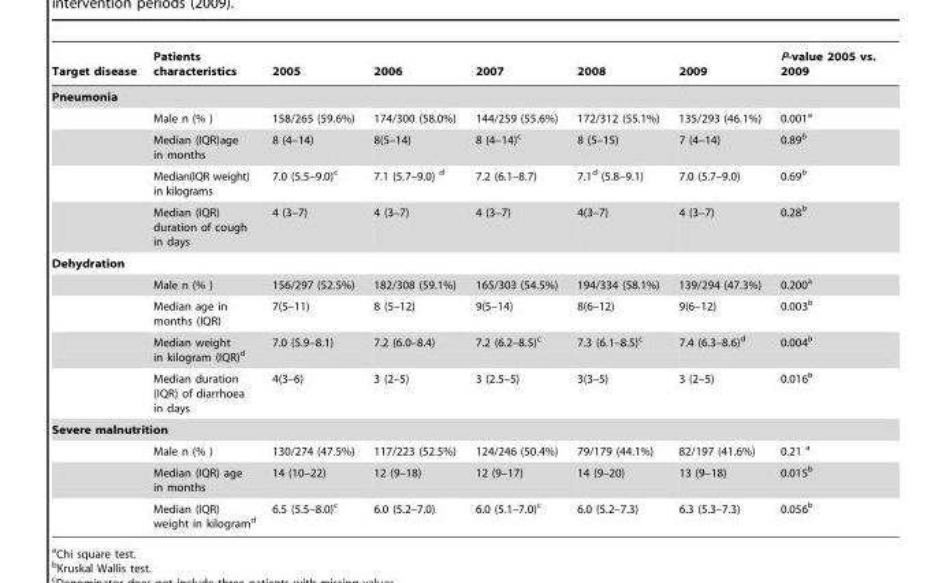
<table><thead><tr><td>Target disease</td><td>Patients characteristics</td><td>2005</td><td>2006</td><td>2007</td><td>2008</td><td>2009</td><td>P-value 2005 vs. 2009</td></tr></thead><tbody><tr><td colspan="8">Pneumonia</td></tr><tr><td></td><td>Male n (% )</td><td>158/265 (59.6%)</td><td>174/300 (58.0%)</td><td>144/259 (55.6%)</td><td>172/312 (55.1%)</td><td>135/293 (46.1%)</td><td>0.001<sup>a</sup></td></tr><tr><td></td><td>Median (IQR)age in months</td><td>8 (4–14)</td><td>8(5–14)</td><td>8 (4–14)<sup>c</sup></td><td>8 (5–15)</td><td>7 (4–14)</td><td>0.89<sup>b</sup></td></tr><tr><td></td><td>Median(IQR weight) in kilograms</td><td>7.0 (5.5–9.0)<sup>c</sup></td><td>7.1 (5.7–9.0) d</td><td>7.2 (6.1–8.7)</td><td>7.1<sup>d</sup> (5.8–9.1)</td><td>7.0 (5.7–9.0)</td><td>0.69<sup>b</sup></td></tr><tr><td></td><td>Median (IQR) duration of cough in days</td><td>4 (3–7)</td><td>4 (3–7)</td><td>4 (3–7)</td><td>4(3–7)</td><td>4 (3–7)</td><td>0.28<sup>b</sup></td></tr><tr><td colspan="8">Dehydration</td></tr><tr><td></td><td>Male n (% )</td><td>156/297 (52.5%)</td><td>182/308 (59.1%)</td><td>165/303 (54.5%)</td><td>194/334 (58.1%)</td><td>139/294 (47.3%)</td><td>0.200<sup>a</sup></td></tr><tr><td></td><td>Median age in months (IQR)</td><td>7(5–11)</td><td>8 (5–12)</td><td>9(5–14)</td><td>8(6–12)</td><td>9(6–12)</td><td>0.003<sup>b</sup></td></tr><tr><td></td><td>Median weight in kilogram (IQR)<sup>d</sup></td><td>7.0 (5.9–8.1)</td><td>7.2 (6.0–8.4)</td><td>7.2 (6.2–8.5)<sup>c</sup></td><td>7.3 (6.1–8.5)<sup>c</sup></td><td>7.4 (6.3–8.6)<sup>d</sup></td><td>0.004<sup>b</sup></td></tr><tr><td></td><td>Median duration (IQR) of diarrhoea in days</td><td>4(3–6)</td><td>3 (2–5)</td><td>3 (2.5–5)</td><td>3(3–5)</td><td>3 (2–5)</td><td>0.016<sup>b</sup></td></tr><tr><td colspan="8">Severe malnutrition</td></tr><tr><td></td><td>Male n (% )</td><td>130/274 (47.5%)</td><td>117/223 (52.5%)</td><td>124/246 (50.4%)</td><td>79/179 (44.1%)</td><td>82/197 (41.6%)</td><td>0.21 a</td></tr><tr><td></td><td>Median (IQR) age in months</td><td>14 (10–22)</td><td>12 (9–18)</td><td>12 (9–17)</td><td>14 (9–20)</td><td>13 (9–18)</td><td>0.015<sup>b</sup></td></tr><tr><td></td><td>Median (IQR) weight in kilogram<sup>d</sup></td><td>6.5 (5.5–8.0)<sup>c</sup></td><td>6.0 (5.2–7.0)</td><td>6.0 (5.1–7.0)<sup>c</sup></td><td>6.0 (5.2–7.3)</td><td>6.3 (5.3–7.3)</td><td>0.056<sup>b</sup></td></tr></tbody></table>